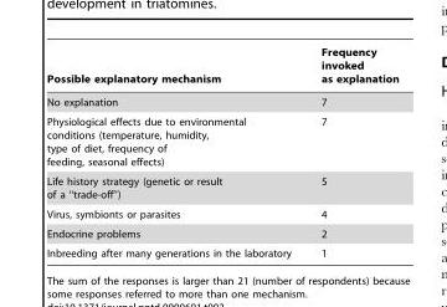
<table><thead><tr><td>Possible explanatory mechanism</td><td>Frequency invoked as explanation</td></tr></thead><tbody><tr><td>No explanation</td><td>7</td></tr><tr><td>Physiological effects due to environmental conditions (temperature, humidity, type of diet, frequency of feeding, seasonal effects)</td><td>7</td></tr><tr><td>Life history strategy (genetic or result of a ‘‘trade-off’’)</td><td>5</td></tr><tr><td>Virus, symbionts or parasites</td><td>4</td></tr><tr><td>Endocrine problems</td><td>2</td></tr><tr><td>Inbreeding after many generations in the laboratory</td><td>1</td></tr></tbody></table>